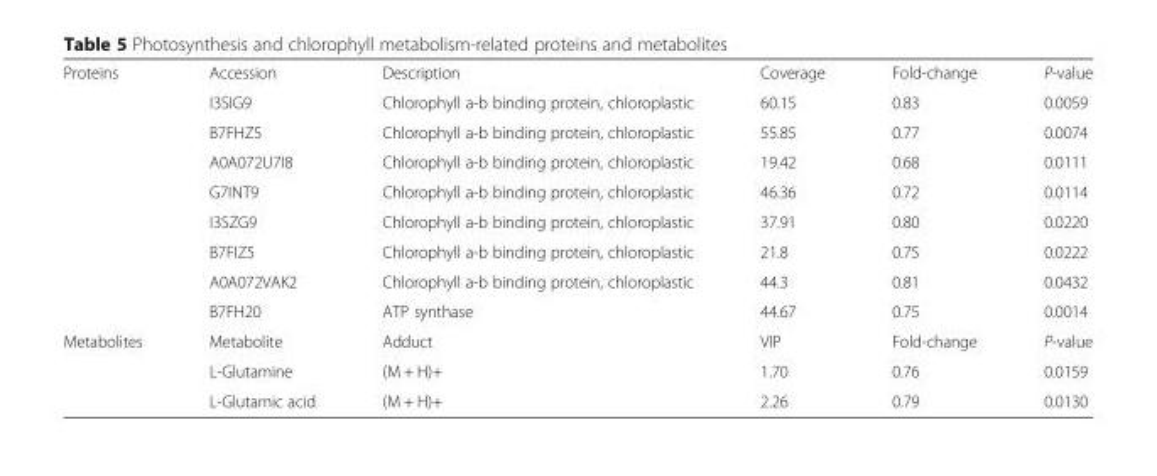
<table><tbody><tr><td rowspan="9">Proteins</td><td>Accession</td><td>Description</td><td>Coverage</td><td>Fold-change</td><td>P-value</td></tr><tr><td>I3SIG9</td><td>Chlorophyll a-b binding protein, chloroplastic</td><td>60.15</td><td>0.83</td><td>0.0059</td></tr><tr><td>B7FHZ5</td><td>Chlorophyll a-b binding protein, chloroplastic</td><td>55.85</td><td>0.77</td><td>0.0074</td></tr><tr><td>A0A072U7I8</td><td>Chlorophyll a-b binding protein, chloroplastic</td><td>19.42</td><td>0.68</td><td>0.0111</td></tr><tr><td>G7INT9</td><td>Chlorophyll a-b binding protein, chloroplastic</td><td>46.36</td><td>0.72</td><td>0.0114</td></tr><tr><td>I3SZG9</td><td>Chlorophyll a-b binding protein, chloroplastic</td><td>37.91</td><td>0.80</td><td>0.0220</td></tr><tr><td>B7FIZ5</td><td>Chlorophyll a-b binding protein, chloroplastic</td><td>21.8</td><td>0.75</td><td>0.0222</td></tr><tr><td>A0A072VAK2</td><td>Chlorophyll a-b binding protein, chloroplastic</td><td>44.3</td><td>0.81</td><td>0.0432</td></tr><tr><td>B7FH20</td><td>ATP synthase</td><td>44.67</td><td>0.75</td><td>0.0014</td></tr><tr><td rowspan="3">Metabolites</td><td>Metabolite</td><td>Adduct</td><td>VIP</td><td>Fold-change</td><td>P-value</td></tr><tr><td>L-Glutamine</td><td>(M + H)+</td><td>1.70</td><td>0.76</td><td>0.0159</td></tr><tr><td>L-Glutamic acid</td><td>(M + H)+</td><td>2.26</td><td>0.79</td><td>0.0130</td></tr></tbody></table>